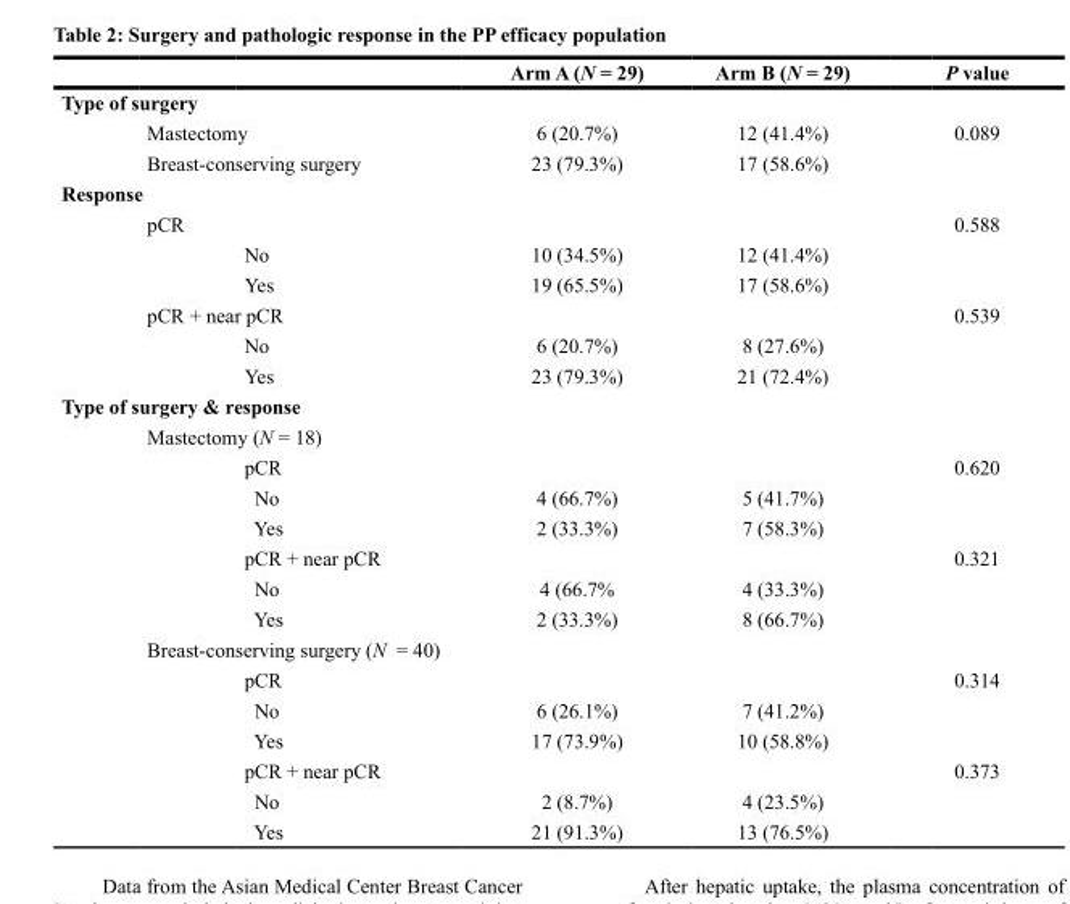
<table><thead><tr><td></td><td>Arm A (N = 29)</td><td>Arm B (N = 29)</td><td>P value</td></tr></thead><tbody><tr><td colspan="4">Type of surgery</td></tr><tr><td>Mastectomy</td><td>6 (20.7%)</td><td>12 (41.4%)</td><td>0.089</td></tr><tr><td>Breast-conserving surgery</td><td>23 (79.3%)</td><td>17 (58.6%)</td><td></td></tr><tr><td colspan="4">Response</td></tr><tr><td>pCR</td><td></td><td></td><td>0.588</td></tr><tr><td>No</td><td>10 (34.5%)</td><td>12 (41.4%)</td><td></td></tr><tr><td>Yes</td><td>19 (65.5%)</td><td>17 (58.6%)</td><td></td></tr><tr><td>pCR + near pCR</td><td></td><td></td><td>0.539</td></tr><tr><td>No</td><td>6 (20.7%)</td><td>8 (27.6%)</td><td></td></tr><tr><td>Yes</td><td>23 (79.3%)</td><td>21 (72.4%)</td><td></td></tr><tr><td colspan="4">Type of surgery &amp; response</td></tr><tr><td colspan="4">Mastectomy (N = 18)</td></tr><tr><td>pCR</td><td></td><td></td><td>0.620</td></tr><tr><td>No</td><td>4 (66.7%)</td><td>5 (41.7%)</td><td></td></tr><tr><td>Yes</td><td>2 (33.3%)</td><td>7 (58.3%)</td><td></td></tr><tr><td>pCR + near pCR</td><td></td><td></td><td>0.321</td></tr><tr><td>No</td><td>4 (66.7%</td><td>4 (33.3%)</td><td></td></tr><tr><td>Yes</td><td>2 (33.3%)</td><td>8 (66.7%)</td><td></td></tr><tr><td colspan="4">Breast-conserving surgery (N = 40)</td></tr><tr><td>pCR</td><td></td><td></td><td>0.314</td></tr><tr><td>No</td><td>6 (26.1%)</td><td>7 (41.2%)</td><td></td></tr><tr><td>Yes</td><td>17 (73.9%)</td><td>10 (58.8%)</td><td></td></tr><tr><td>pCR + near pCR</td><td></td><td></td><td>0.373</td></tr><tr><td>No</td><td>2 (8.7%)</td><td>4 (23.5%)</td><td></td></tr><tr><td>Yes</td><td>21 (91.3%)</td><td>13 (76.5%)</td><td></td></tr></tbody></table>